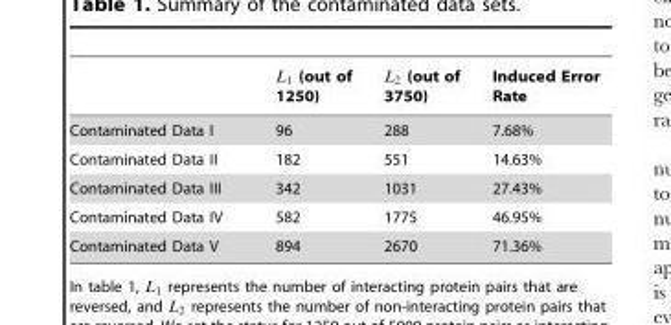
<table><thead><tr><td></td><td>L1 (out of 1250)</td><td>L2 (out of 3750)</td><td>Induced Error Rate</td></tr></thead><tbody><tr><td>Contaminated Data I</td><td>96</td><td>288</td><td>7.68%</td></tr><tr><td>Contaminated Data II</td><td>182</td><td>551</td><td>14.63%</td></tr><tr><td>Contaminated Data III</td><td>342</td><td>1031</td><td>27.43%</td></tr><tr><td>Contaminated Data IV</td><td>582</td><td>1775</td><td>46.95%</td></tr><tr><td>Contaminated Data V</td><td>894</td><td>2670</td><td>71.36%</td></tr></tbody></table>